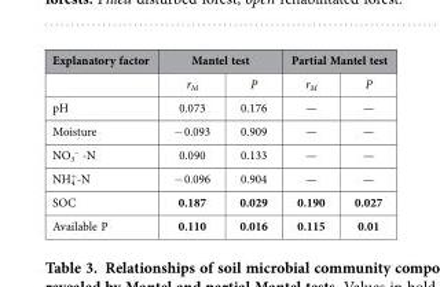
<table><thead><tr><td rowspan="2">Explanatory factor</td><td colspan="2">Mantel test</td><td colspan="2">Partial Mantel test</td></tr><tr><td>r<sub>M</sub></td><td>P</td><td>r<sub>M</sub></td><td>P</td></tr></thead><tbody><tr><td>pH</td><td>0.073</td><td>0.176</td><td>—</td><td>—</td></tr><tr><td>Moisture</td><td>− 0.093</td><td>0.909</td><td>—</td><td>—</td></tr><tr><td>NO<sub>3</sub> <sup>–</sup> -N</td><td>0.090</td><td>0.133</td><td>—</td><td>—</td></tr><tr><td>NH<sub>4</sub> <sup>+</sup>-N</td><td>− 0.096</td><td>0.904</td><td>—</td><td>—</td></tr><tr><td>SOC</td><td>0.187</td><td>0.029</td><td>0.190</td><td>0.027</td></tr><tr><td>Available P</td><td>0.110</td><td>0.016</td><td>0.115</td><td>0.01</td></tr></tbody></table>